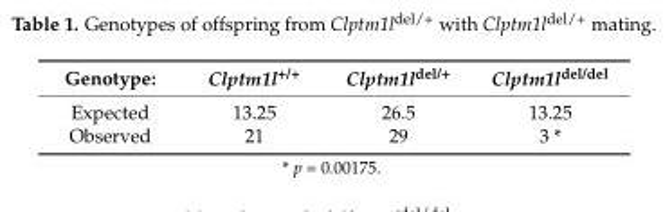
<table><thead><tr><td>Genotype:</td><td>Clptm1l<sup>+/+</sup></td><td>Clptm1l<sup>del/+</sup></td><td>Clptm1l<sup>del/del</sup></td></tr></thead><tbody><tr><td>Expected</td><td>13.25</td><td>26.5</td><td>13.25</td></tr><tr><td>Observed</td><td>21</td><td>29</td><td>3 *</td></tr></tbody></table>